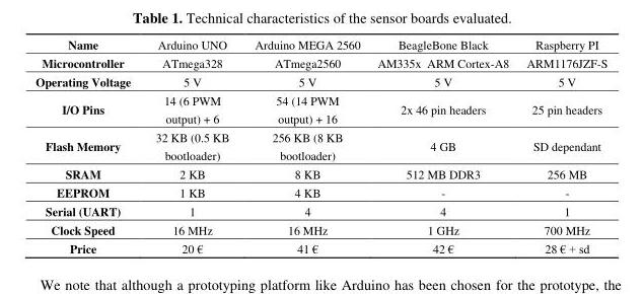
<table><tbody><tr><td>Name</td><td>Arduino UNO</td><td>Arduino MEGA 2560</td><td>BeagleBone Black</td><td>Raspberry PI</td></tr><tr><td>Microcontroller</td><td>ATmega328</td><td>ATmega2560</td><td>AM335x ARM Cortex-A8</td><td>ARM1176JZF-S</td></tr><tr><td>Operating Voltage</td><td>5 V</td><td>5 V</td><td>5 V</td><td>5 V</td></tr><tr><td>I/O Pins</td><td>14 (6 PWM output) + 6</td><td>54 (14 PWM output) + 16</td><td>2x 46 pin headers</td><td>25 pin headers</td></tr><tr><td>Flash Memory</td><td>32 KB (0.5 KB bootloader)</td><td>256 KB (8 KB bootloader)</td><td>4 GB</td><td>SD dependant</td></tr><tr><td>SRAM</td><td>2 KB</td><td>8 KB</td><td>512 MB DDR3</td><td>256 MB</td></tr><tr><td>EEPROM</td><td>1 KB</td><td>4 KB</td><td>-</td><td>-</td></tr><tr><td>Serial (UART)</td><td>1</td><td>4</td><td>4</td><td>1</td></tr><tr><td>Clock Speed</td><td>16 MHz</td><td>16 MHz</td><td>1 GHz</td><td>700 MHz</td></tr><tr><td>Price</td><td>20 €</td><td>41 €</td><td>42 €</td><td>28 € + sd</td></tr></tbody></table>